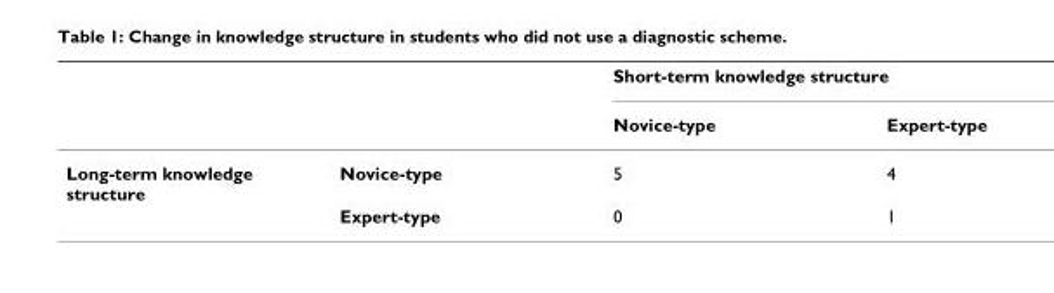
<table><thead><tr><td rowspan="2"></td><td rowspan="2"></td><td colspan="2">Short-term knowledge structure</td></tr><tr><td>Novice-type</td><td>Expert-type</td></tr></thead><tbody><tr><td rowspan="2">Long-term knowledge structure</td><td>Novice-type</td><td>5</td><td>4</td></tr><tr><td>Expert-type</td><td>0</td><td>1</td></tr></tbody></table>